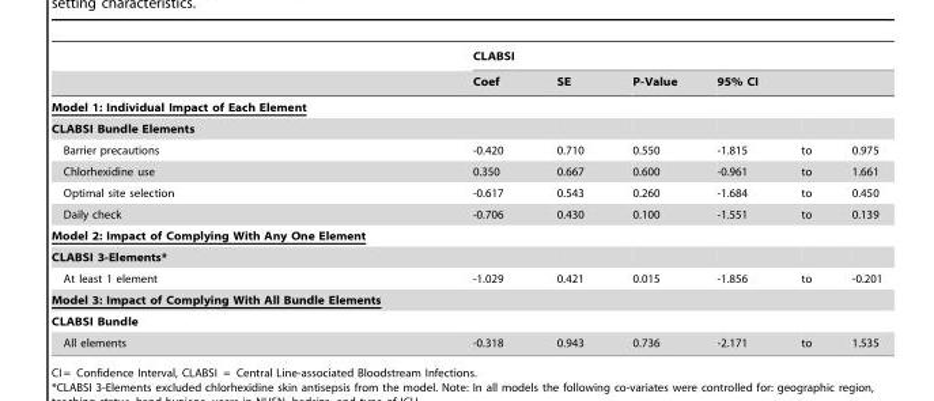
<table><thead><tr><td rowspan="2"></td><td colspan="6">CLABSI</td></tr><tr><td>Coef</td><td>SE</td><td>P-Value</td><td colspan="3">95% CI</td></tr><tr><td colspan="7">Model 1: Individual Impact of Each Element</td></tr><tr><td>CLABSI Bundle Elements</td><td></td><td></td><td></td><td></td><td></td><td></td></tr></thead><tbody><tr><td>Barrier precautions</td><td>-0.420</td><td>0.710</td><td>0.550</td><td>-1.815</td><td>to</td><td>0.975</td></tr><tr><td>Chlorhexidine use</td><td>0.350</td><td>0.667</td><td>0.600</td><td>-0.961</td><td>to</td><td>1.661</td></tr><tr><td>Optimal site selection</td><td>-0.617</td><td>0.543</td><td>0.260</td><td>-1.684</td><td>to</td><td>0.450</td></tr><tr><td>Daily check</td><td>-0.706</td><td>0.430</td><td>0.100</td><td>-1.551</td><td>to</td><td>0.139</td></tr><tr><td colspan="7">Model 2: Impact of Complying With Any One Element</td></tr><tr><td colspan="7">CLABSI 3-Elements*</td></tr><tr><td>At least 1 element</td><td>-1.029</td><td>0.421</td><td>0.015</td><td>-1.856</td><td>to</td><td>-0.201</td></tr><tr><td colspan="7">Model 3: Impact of Complying With All Bundle Elements</td></tr><tr><td colspan="7">CLABSI Bundle</td></tr><tr><td>All elements</td><td>-0.318</td><td>0.943</td><td>0.736</td><td>-2.171</td><td>to</td><td>1.535</td></tr></tbody></table>